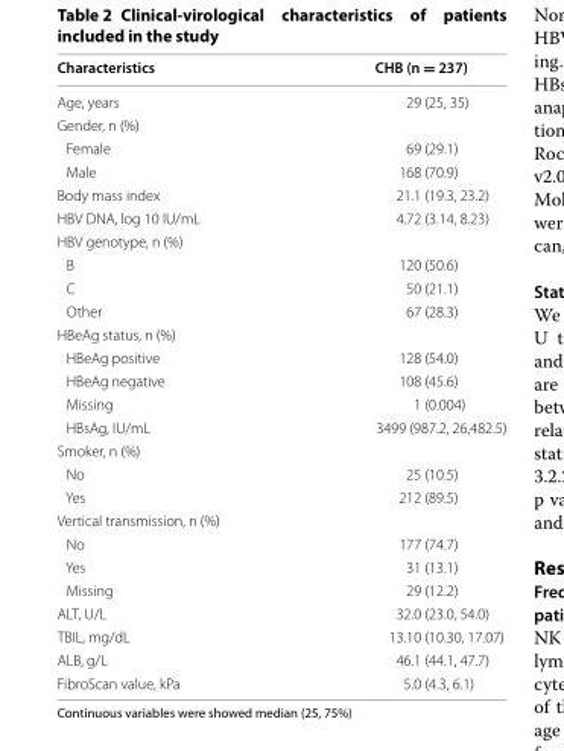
<table><thead><tr><td>Characteristics</td><td>CHB (n = 237)</td></tr></thead><tbody><tr><td>Age, years</td><td>29 (25, 35)</td></tr><tr><td colspan="2">Gender, n (%)</td></tr><tr><td>Female</td><td>69 (29.1)</td></tr><tr><td>Male</td><td>168 (70.9)</td></tr><tr><td>Body mass index</td><td>21.1 (19.3, 23.2)</td></tr><tr><td>HBV DNA, log 10 IU/mL</td><td>4.72 (3.14, 8.23)</td></tr><tr><td colspan="2">HBV genotype, n (%)</td></tr><tr><td>B</td><td>120 (50.6)</td></tr><tr><td>C</td><td>50 (21.1)</td></tr><tr><td>Other</td><td>67 (28.3)</td></tr><tr><td colspan="2">HBeAg status, n (%)</td></tr><tr><td>HBeAg positive</td><td>128 (54.0)</td></tr><tr><td>HBeAg negative</td><td>108 (45.6)</td></tr><tr><td>Missing</td><td>1 (0.004)</td></tr><tr><td>HBsAg, IU/mL</td><td>3499 (987.2, 26,482.5)</td></tr><tr><td colspan="2">Smoker, n (%)</td></tr><tr><td>No</td><td>25 (10.5)</td></tr><tr><td>Yes</td><td>212 (89.5)</td></tr><tr><td colspan="2">Vertical transmission, n (%)</td></tr><tr><td>No</td><td>177 (74.7)</td></tr><tr><td>Yes</td><td>31 (13.1)</td></tr><tr><td>Missing</td><td>29 (12.2)</td></tr><tr><td>ALT, U/L</td><td>32.0 (23.0, 54.0)</td></tr><tr><td>TBIL, mg/dL</td><td>13.10 (10.30, 17.07)</td></tr><tr><td>ALB, g/L</td><td>46.1 (44.1, 47.7)</td></tr><tr><td>FibroScan value, kPa</td><td>5.0 (4.3, 6.1)</td></tr></tbody></table>